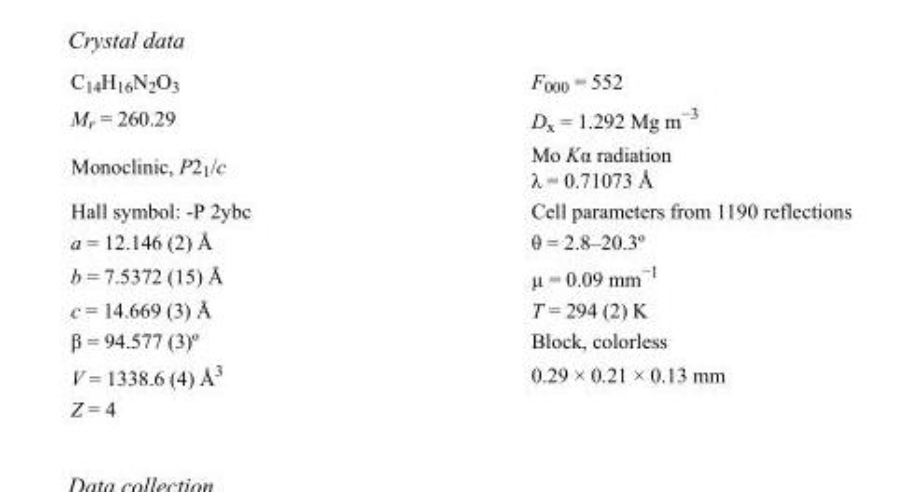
<table><tbody><tr><td>C<sub>14</sub>H<sub>16</sub>N<sub>2</sub>O<sub>3</sub></td><td>F<sub>000</sub> = 552</td></tr><tr><td>M<sub>r</sub> = 260.29</td><td>D<sub>x</sub> = 1.292 Mg m<sup>−3</sup></td></tr><tr><td>Monoclinic, P2<sub>1</sub>/c</td><td>Mo Kα radiation λ = 0.71073 Å</td></tr><tr><td>Hall symbol: -P 2ybc</td><td>Cell parameters from 1190 reflections</td></tr><tr><td>a = 12.146 (2) Å</td><td>θ = 2.8–20.3º</td></tr><tr><td>b = 7.5372 (15) Å</td><td>µ = 0.09 mm<sup>−1</sup></td></tr><tr><td>c = 14.669 (3) Å</td><td>T = 294 (2) K</td></tr><tr><td>β = 94.577 (3)º</td><td>Block, colorless</td></tr><tr><td>V = 1338.6 (4) Å<sup>3</sup></td><td>0.29 × 0.21 × 0.13 mm</td></tr><tr><td>Z = 4</td><td></td></tr></tbody></table>